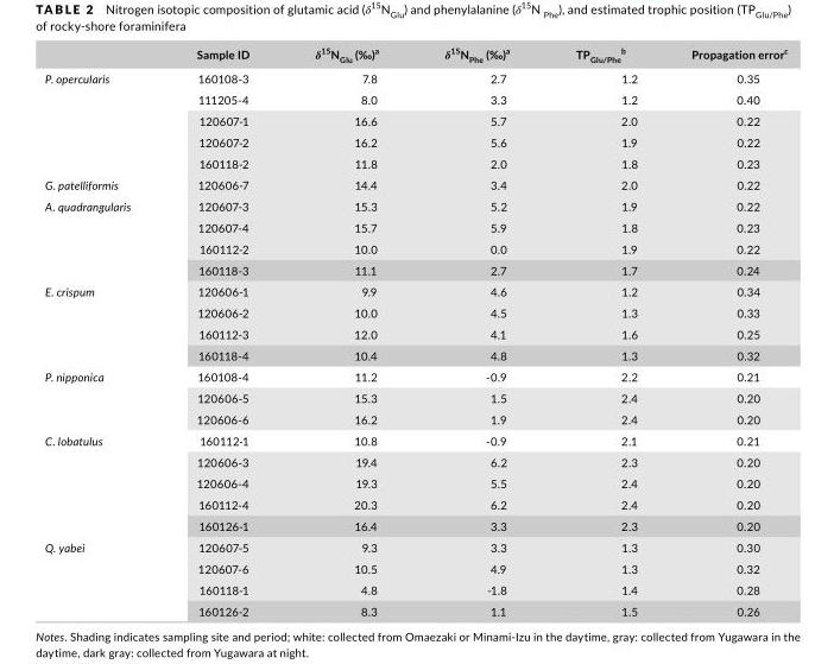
<table><thead><tr><td></td><td>SampleID</td><td>δ<sup>15</sup>N<sub>Glu</sub>(‰)<sup>a</sup></td><td>δ<sup>15</sup>N<sub>Phe</sub>(‰)<sup>a</sup></td><td>TP<sub>Glu/Phe</sub> b</td><td>Propagationerror<sup>c</sup></td></tr></thead><tbody><tr><td rowspan="5">P. opercularis</td><td>160108- 3</td><td>7.8</td><td>2.7</td><td>1.2</td><td>0.35</td></tr><tr><td>111205- 4</td><td>8.0</td><td>3.3</td><td>1.2</td><td>0.40</td></tr><tr><td>120607- 1</td><td>16.6</td><td>5.7</td><td>2.0</td><td>0.22</td></tr><tr><td>120607- 2</td><td>16.2</td><td>5.6</td><td>1.9</td><td>0.22</td></tr><tr><td>160118- 2</td><td>11.8</td><td>2.0</td><td>1.8</td><td>0.23</td></tr><tr><td>G. patelliformis</td><td>120606- 7</td><td>14.4</td><td>3.4</td><td>2.0</td><td>0.22</td></tr><tr><td rowspan="4">A. quadrangularis</td><td>120607- 3</td><td>15.3</td><td>5.2</td><td>1.9</td><td>0.22</td></tr><tr><td>120607- 4</td><td>15.7</td><td>5.9</td><td>1.8</td><td>0.23</td></tr><tr><td>160112- 2</td><td>10.0</td><td>0.0</td><td>1.9</td><td>0.22</td></tr><tr><td>160118- 3</td><td>11.1</td><td>2.7</td><td>1.7</td><td>0.24</td></tr><tr><td rowspan="4">E. crispum</td><td>120606- 1</td><td>9.9</td><td>4.6</td><td>1.2</td><td>0.34</td></tr><tr><td>120606- 2</td><td>10.0</td><td>4.5</td><td>1.3</td><td>0.33</td></tr><tr><td>160112- 3</td><td>12.0</td><td>4.1</td><td>1.6</td><td>0.25</td></tr><tr><td>160118- 4</td><td>10.4</td><td>4.8</td><td>1.3</td><td>0.32</td></tr><tr><td rowspan="3">P. nipponica</td><td>160108- 4</td><td>11.2</td><td>- 0.9</td><td>2.2</td><td>0.21</td></tr><tr><td>120606- 5</td><td>15.3</td><td>1.5</td><td>2.4</td><td>0.20</td></tr><tr><td>120606- 6</td><td>16.2</td><td>1.9</td><td>2.4</td><td>0.20</td></tr><tr><td rowspan="5">C. lobatulus</td><td>160112- 1</td><td>10.8</td><td>- 0.9</td><td>2.1</td><td>0.21</td></tr><tr><td>120606- 3</td><td>19.4</td><td>6.2</td><td>2.3</td><td>0.20</td></tr><tr><td>120606- 4</td><td>19.3</td><td>5.5</td><td>2.4</td><td>0.20</td></tr><tr><td>160112- 4</td><td>20.3</td><td>6.2</td><td>2.4</td><td>0.20</td></tr><tr><td>160126- 1</td><td>16.4</td><td>3.3</td><td>2.3</td><td>0.20</td></tr><tr><td rowspan="4">Q. yabei</td><td>120607- 5</td><td>9.3</td><td>3.3</td><td>1.3</td><td>0.30</td></tr><tr><td>120607- 6</td><td>10.5</td><td>4.9</td><td>1.3</td><td>0.32</td></tr><tr><td>160118- 1</td><td>4.8</td><td>- 1.8</td><td>1.4</td><td>0.28</td></tr><tr><td>160126- 2</td><td>8.3</td><td>1.1</td><td>1.5</td><td>0.26</td></tr></tbody></table>